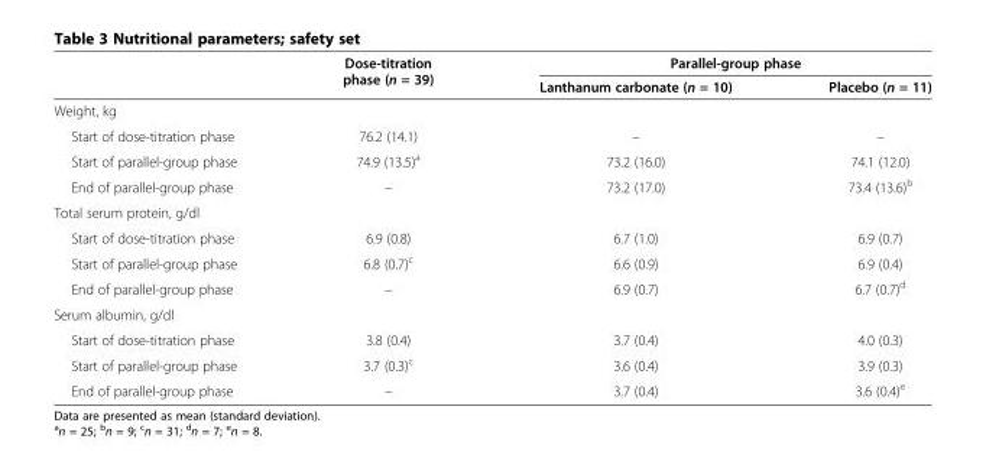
<table><thead><tr><td rowspan="2"></td><td rowspan="2">Dose-titration phase (n = 39)</td><td colspan="2">Parallel-group phase</td></tr><tr><td>Lanthanum carbonate (n = 10)</td><td>Placebo (n = 11)</td></tr></thead><tbody><tr><td colspan="4">Weight, kg</td></tr><tr><td>Start of dose-titration phase</td><td>76.2 (14.1)</td><td>–</td><td>–</td></tr><tr><td>Start of parallel-group phase</td><td>74.9 (13.5)<sup>a</sup></td><td>73.2 (16.0)</td><td>74.1 (12.0)</td></tr><tr><td>End of parallel-group phase</td><td>–</td><td>73.2 (17.0)</td><td>73.4 (13.6)<sup>b</sup></td></tr><tr><td colspan="4">Total serum protein, g/dl</td></tr><tr><td>Start of dose-titration phase</td><td>6.9 (0.8)</td><td>6.7 (1.0)</td><td>6.9 (0.7)</td></tr><tr><td>Start of parallel-group phase</td><td>6.8 (0.7)<sup>c</sup></td><td>6.6 (0.9)</td><td>6.9 (0.4)</td></tr><tr><td>End of parallel-group phase</td><td>–</td><td>6.9 (0.7)</td><td>6.7 (0.7)<sup>d</sup></td></tr><tr><td colspan="4">Serum albumin, g/dl</td></tr><tr><td>Start of dose-titration phase</td><td>3.8 (0.4)</td><td>3.7 (0.4)</td><td>4.0 (0.3)</td></tr><tr><td>Start of parallel-group phase</td><td>3.7 (0.3)<sup>c</sup></td><td>3.6 (0.4)</td><td>3.9 (0.3)</td></tr><tr><td>End of parallel-group phase</td><td>–</td><td>3.7 (0.4)</td><td>3.6 (0.4)<sup>e</sup></td></tr></tbody></table>